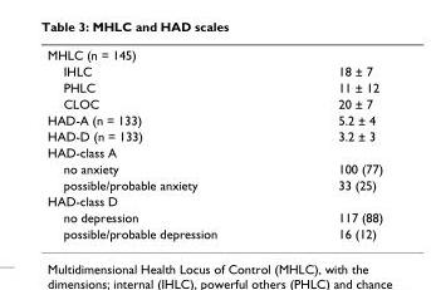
<table><tbody><tr><td colspan="2">MHLC (n = 145)</td></tr><tr><td>IHLC</td><td>18 ± 7</td></tr><tr><td>PHLC</td><td>11 ± 12</td></tr><tr><td>CLOC</td><td>20 ± 7</td></tr><tr><td>HAD-A (n = 133)</td><td>5.2 ± 4</td></tr><tr><td>HAD-D (n = 133)</td><td>3.2 ± 3</td></tr><tr><td colspan="2">HAD-class A</td></tr><tr><td>no anxiety</td><td>100 (77)</td></tr><tr><td>possible/probable anxiety</td><td>33 (25)</td></tr><tr><td colspan="2">HAD-class D</td></tr><tr><td>no depression</td><td>117 (88)</td></tr><tr><td>possible/probable depression</td><td>16 (12)</td></tr></tbody></table>